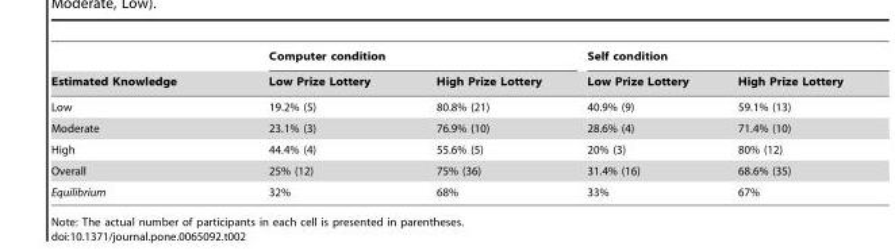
<table><thead><tr><td rowspan="2">Estimated Knowledge</td><td colspan="2">Computer condition</td><td colspan="2">Self condition</td></tr><tr><td>Low Prize Lottery</td><td>High Prize Lottery</td><td>Low Prize Lottery</td><td>High Prize Lottery</td></tr></thead><tbody><tr><td>Low</td><td>19.2% (5)</td><td>80.8% (21)</td><td>40.9% (9)</td><td>59.1% (13)</td></tr><tr><td>Moderate</td><td>23.1% (3)</td><td>76.9% (10)</td><td>28.6% (4)</td><td>71.4% (10)</td></tr><tr><td>High</td><td>44.4% (4)</td><td>55.6% (5)</td><td>20% (3)</td><td>80% (12)</td></tr><tr><td>Overall</td><td>25% (12)</td><td>75% (36)</td><td>31.4% (16)</td><td>68.6% (35)</td></tr><tr><td>Equilibrium</td><td>32%</td><td>68%</td><td>33%</td><td>67%</td></tr></tbody></table>